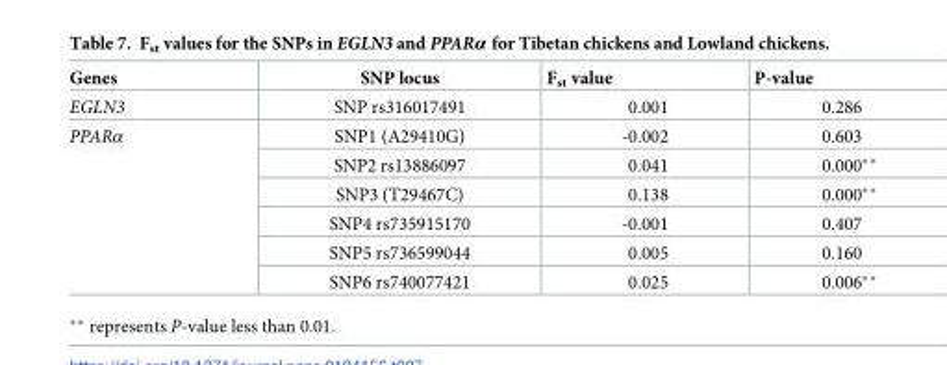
<table><thead><tr><td>Genes</td><td>SNP locus</td><td>F<sub>st</sub> value</td><td>P-value</td></tr></thead><tbody><tr><td>EGLN3</td><td>SNP rs316017491</td><td>0.001</td><td>0.286</td></tr><tr><td rowspan="6">PPARα</td><td>SNP1 (A29410G)</td><td>-0.002</td><td>0.603</td></tr><tr><td>SNP2 rs13886097</td><td>0.041</td><td>0.000**</td></tr><tr><td>SNP3 (T29467C)</td><td>0.138</td><td>0.000**</td></tr><tr><td>SNP4 rs735915170</td><td>-0.001</td><td>0.407</td></tr><tr><td>SNP5 rs736599044</td><td>0.005</td><td>0.160</td></tr><tr><td>SNP6 rs740077421</td><td>0.025</td><td>0.006**</td></tr></tbody></table>